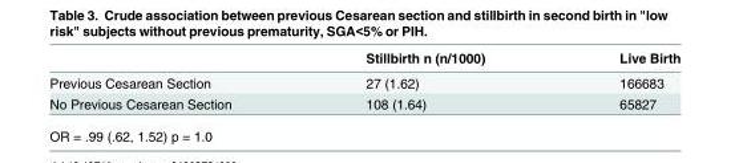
<table><thead><tr><td></td><td>Stillbirth n (n/1000)</td><td>Live Birth</td></tr></thead><tbody><tr><td>Previous Cesarean Section</td><td>27 (1.62)</td><td>166683</td></tr><tr><td>No Previous Cesarean Section</td><td>108 (1.64)</td><td>65827</td></tr></tbody></table>